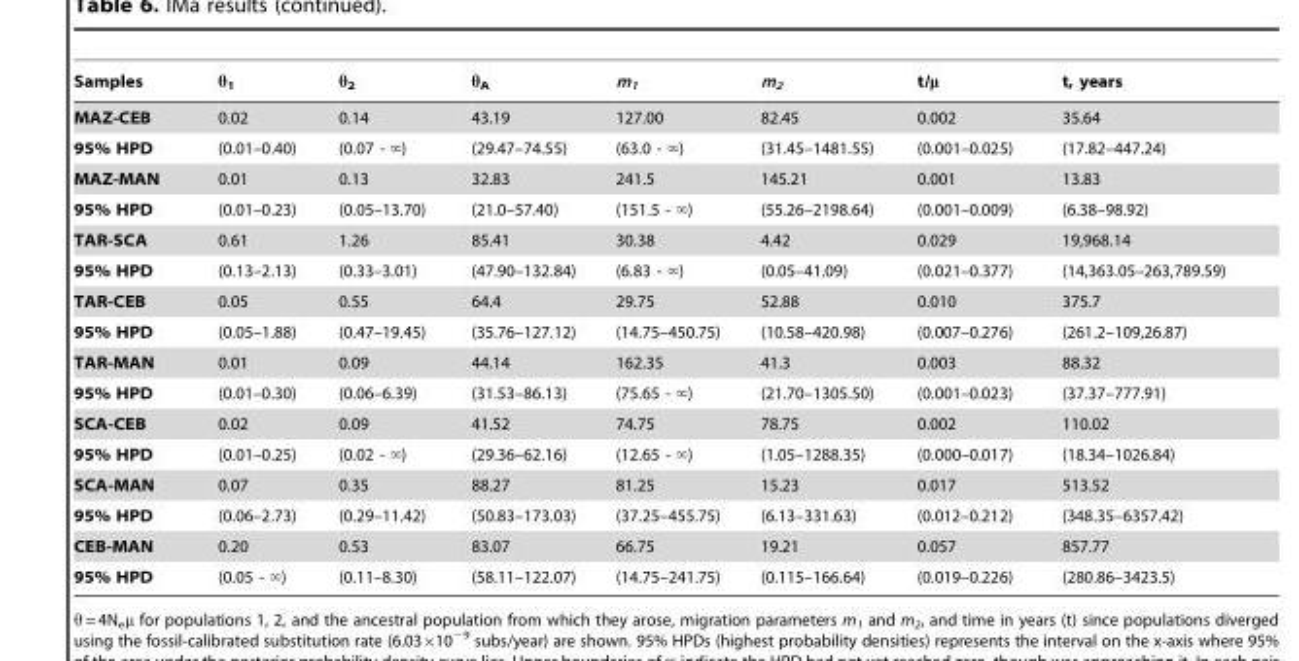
<table><thead><tr><td>Samples</td><td>θ<sub>1</sub></td><td>θ<sub>2</sub></td><td>θ<sub>A</sub></td><td>m<sub>1</sub></td><td>m<sub>2</sub></td><td>t/μ</td><td>t, years</td></tr></thead><tbody><tr><td>MAZ-CEB</td><td>0.02</td><td>0.14</td><td>43.19</td><td>127.00</td><td>82.45</td><td>0.002</td><td>35.64</td></tr><tr><td>95% HPD</td><td>(0.01–0.40)</td><td>(0.07 - ‘)</td><td>(29.47–74.55)</td><td>(63.0 - ‘)</td><td>(31.45–1481.55)</td><td>(0.001–0.025)</td><td>(17.82–447.24)</td></tr><tr><td>MAZ-MAN</td><td>0.01</td><td>0.13</td><td>32.83</td><td>241.5</td><td>145.21</td><td>0.001</td><td>13.83</td></tr><tr><td>95% HPD</td><td>(0.01–0.23)</td><td>(0.05–13.70)</td><td>(21.0–57.40)</td><td>(151.5 - ‘)</td><td>(55.26–2198.64)</td><td>(0.001–0.009)</td><td>(6.38–98.92)</td></tr><tr><td>TAR-SCA</td><td>0.61</td><td>1.26</td><td>85.41</td><td>30.38</td><td>4.42</td><td>0.029</td><td>19,968.14</td></tr><tr><td>95% HPD</td><td>(0.13–2.13)</td><td>(0.33–3.01)</td><td>(47.90–132.84)</td><td>(6.83 - ‘)</td><td>(0.05–41.09)</td><td>(0.021–0.377)</td><td>(14,363.05–263,789.59)</td></tr><tr><td>TAR-CEB</td><td>0.05</td><td>0.55</td><td>64.4</td><td>29.75</td><td>52.88</td><td>0.010</td><td>375.7</td></tr><tr><td>95% HPD</td><td>(0.05–1.88)</td><td>(0.47–19.45)</td><td>(35.76–127.12)</td><td>(14.75–450.75)</td><td>(10.58–420.98)</td><td>(0.007–0.276)</td><td>(261.2–109,26.87)</td></tr><tr><td>TAR-MAN</td><td>0.01</td><td>0.09</td><td>44.14</td><td>162.35</td><td>41.3</td><td>0.003</td><td>88.32</td></tr><tr><td>95% HPD</td><td>(0.01–0.30)</td><td>(0.06–6.39)</td><td>(31.53–86.13)</td><td>(75.65 - ‘)</td><td>(21.70–1305.50)</td><td>(0.001–0.023)</td><td>(37.37–777.91)</td></tr><tr><td>SCA-CEB</td><td>0.02</td><td>0.09</td><td>41.52</td><td>74.75</td><td>78.75</td><td>0.002</td><td>110.02</td></tr><tr><td>95% HPD</td><td>(0.01–0.25)</td><td>(0.02 - ‘)</td><td>(29.36–62.16)</td><td>(12.65 - ‘)</td><td>(1.05–1288.35)</td><td>(0.000–0.017)</td><td>(18.34–1026.84)</td></tr><tr><td>SCA-MAN</td><td>0.07</td><td>0.35</td><td>88.27</td><td>81.25</td><td>15.23</td><td>0.017</td><td>513.52</td></tr><tr><td>95% HPD</td><td>(0.06–2.73)</td><td>(0.29–11.42)</td><td>(50.83–173.03)</td><td>(37.25–455.75)</td><td>(6.13–331.63)</td><td>(0.012–0.212)</td><td>(348.35–6357.42)</td></tr><tr><td>CEB-MAN</td><td>0.20</td><td>0.53</td><td>83.07</td><td>66.75</td><td>19.21</td><td>0.057</td><td>857.77</td></tr><tr><td>95% HPD</td><td>(0.05 - ‘)</td><td>(0.11–8.30)</td><td>(58.11–122.07)</td><td>(14.75–241.75)</td><td>(0.115–166.64)</td><td>(0.019–0.226)</td><td>(280.86–3423.5)</td></tr></tbody></table>